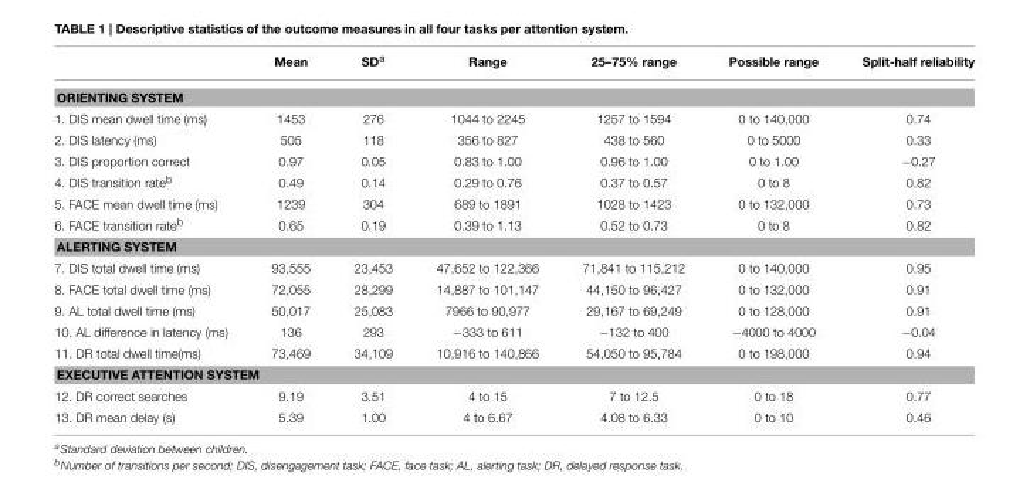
<table><thead><tr><td></td><td>Mean</td><td>SD<sup>a</sup></td><td>Range</td><td>25–75% range</td><td>Possible range</td><td>Split-half reliability</td></tr></thead><tbody><tr><td colspan="7">ORIENTING SYSTEM</td></tr><tr><td>1. DIS mean dwell time (ms)</td><td>1453</td><td>276</td><td>1044 to 2245</td><td>1257 to 1594</td><td>0 to 140,000</td><td>0.74</td></tr><tr><td>2. DIS latency (ms)</td><td>505</td><td>118</td><td>356 to 827</td><td>438 to 560</td><td>0 to 5000</td><td>0.33</td></tr><tr><td>3. DIS proportion correct</td><td>0.97</td><td>0.05</td><td>0.83 to 1.00</td><td>0.96 to 1.00</td><td>0 to 1.00</td><td>−0.27</td></tr><tr><td>4. DIS transition rate<sup>b</sup></td><td>0.49</td><td>0.14</td><td>0.29 to 0.76</td><td>0.37 to 0.57</td><td>0 to 8</td><td>0.82</td></tr><tr><td>5. FACE mean dwell time (ms)</td><td>1239</td><td>304</td><td>689 to 1891</td><td>1028 to 1423</td><td>0 to 132,000</td><td>0.73</td></tr><tr><td>6. FACE transition rate<sup>b</sup></td><td>0.65</td><td>0.19</td><td>0.39 to 1.13</td><td>0.52 to 0.73</td><td>0 to 8</td><td>0.82</td></tr><tr><td colspan="7">ALERTING SYSTEM</td></tr><tr><td>7. DIS total dwell time (ms)</td><td>93,555</td><td>23,453</td><td>47,652 to 122,366</td><td>71,841 to 115,212</td><td>0 to 140,000</td><td>0.95</td></tr><tr><td>8. FACE total dwell time (ms)</td><td>72,055</td><td>28,299</td><td>14,887 to 101,147</td><td>44,150 to 96,427</td><td>0 to 132,000</td><td>0.91</td></tr><tr><td>9. AL total dwell time (ms)</td><td>50,017</td><td>25,083</td><td>7966 to 90,977</td><td>29,167 to 69,249</td><td>0 to 128,000</td><td>0.91</td></tr><tr><td>10. AL difference in latency (ms)</td><td>136</td><td>293</td><td>−333 to 611</td><td>−132 to 400</td><td>−4000 to 4000</td><td>−0.04</td></tr><tr><td>11. DR total dwell time(ms)</td><td>73,469</td><td>34,109</td><td>10,916 to 140,866</td><td>54,050 to 95,784</td><td>0 to 198,000</td><td>0.94</td></tr><tr><td colspan="7">EXECUTIVE ATTENTION SYSTEM</td></tr><tr><td>12. DR correct searches</td><td>9.19</td><td>3.51</td><td>4 to 15</td><td>7 to 12.5</td><td>0 to 18</td><td>0.77</td></tr><tr><td>13. DR mean delay (s)</td><td>5.39</td><td>1.00</td><td>4 to 6.67</td><td>4.08 to 6.33</td><td>0 to 10</td><td>0.46</td></tr></tbody></table>